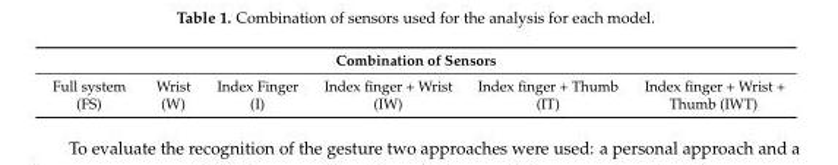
<table><thead><tr><td colspan="6">Combination of Sensors</td></tr><tr><td>Full system (FS)</td><td>Wrist (W)</td><td>Index Finger (I)</td><td>Index finger + Wrist (IW)</td><td>Index finger + Thumb (IT)</td><td>Index finger + Wrist + Thumb (IWT)</td></tr></thead><tbody></tbody></table>